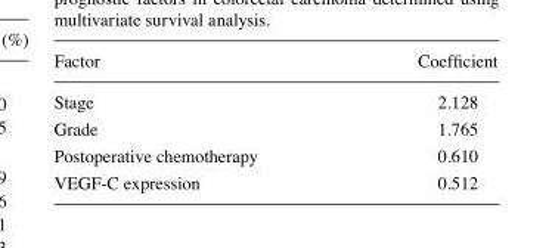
<table><thead><tr><td>Factor</td><td>Coefficient</td></tr></thead><tbody><tr><td>Stage</td><td>2.128</td></tr><tr><td>Grade</td><td>1.765</td></tr><tr><td>Postoperative chemotherapy</td><td>0.610</td></tr><tr><td>VEGF-C expression</td><td>0.512</td></tr></tbody></table>